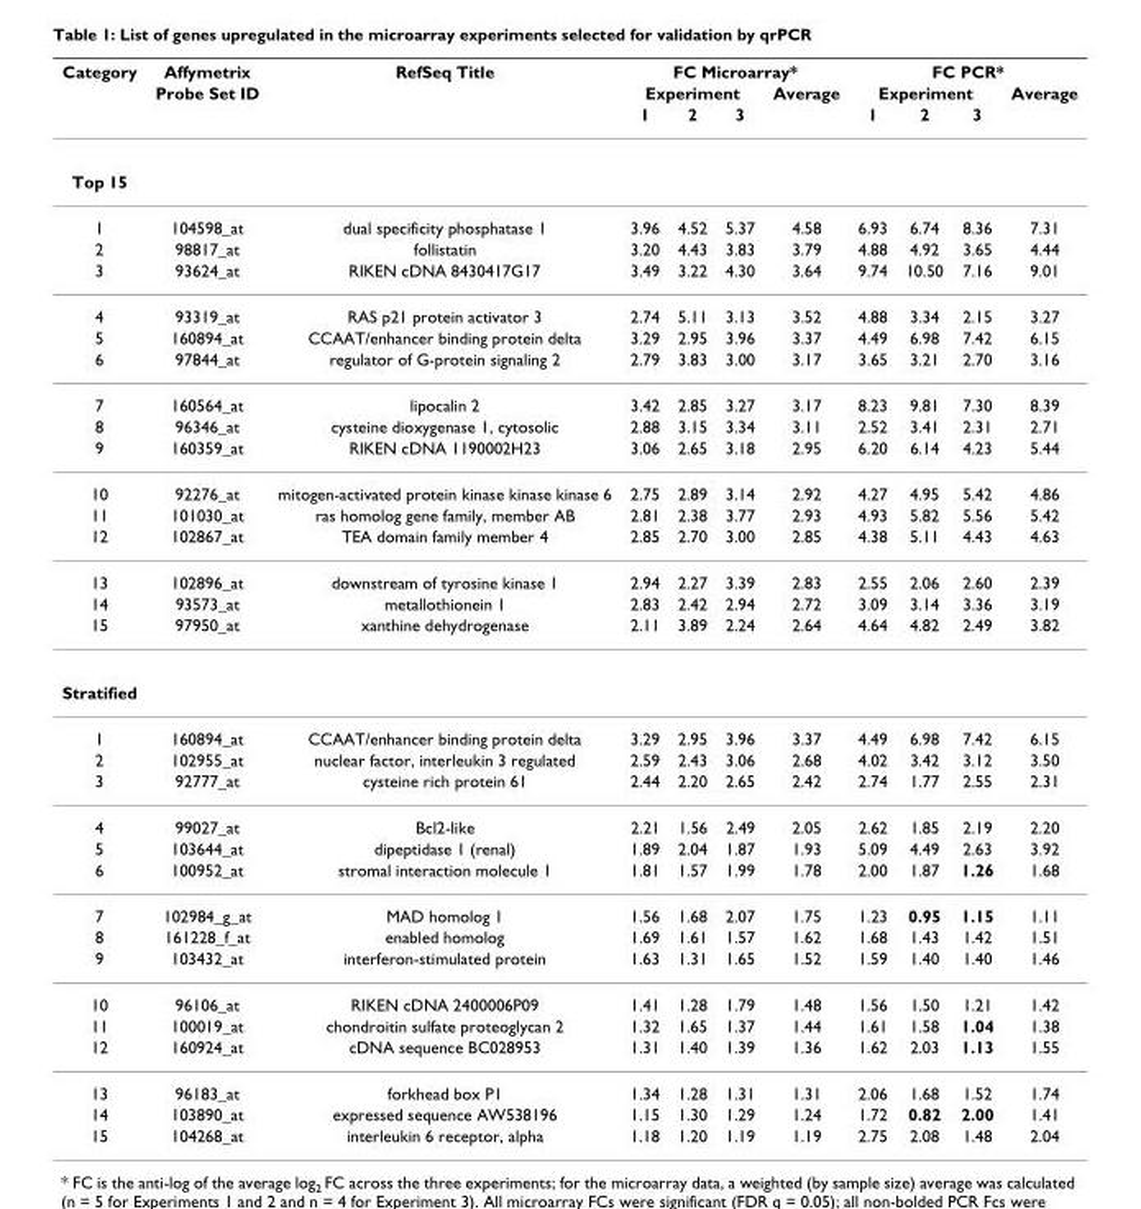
<table><thead><tr><td rowspan="3">Category</td><td rowspan="3">Affymetrix Probe Set ID</td><td rowspan="3">RefSeq Title</td><td colspan="4">FC Microarray*</td><td colspan="4">FC PCR*</td></tr><tr><td colspan="3">Experiment</td><td rowspan="2">Average</td><td colspan="3">Experiment</td><td rowspan="2">Average</td></tr><tr><td>1</td><td>2</td><td>3</td><td>1</td><td>2</td><td>3</td></tr></thead><tbody><tr><td colspan="11">Top 15</td></tr><tr><td>1</td><td>104598_at</td><td>dual specificity phosphatase 1</td><td>3.96</td><td>4.52</td><td>5.37</td><td>4.58</td><td>6.93</td><td>6.74</td><td>8.36</td><td>7.31</td></tr><tr><td>2</td><td>98817_at</td><td>follistatin</td><td>3.20</td><td>4.43</td><td>3.83</td><td>3.79</td><td>4.88</td><td>4.92</td><td>3.65</td><td>4.44</td></tr><tr><td>3</td><td>93624_at</td><td>RIKEN cDNA 8430417G17</td><td>3.49</td><td>3.22</td><td>4.30</td><td>3.64</td><td>9.74</td><td>10.50</td><td>7.16</td><td>9.01</td></tr><tr><td>4</td><td>93319_at</td><td>RAS p21 protein activator 3</td><td>2.74</td><td>5.11</td><td>3.13</td><td>3.52</td><td>4.88</td><td>3.34</td><td>2.15</td><td>3.27</td></tr><tr><td>5</td><td>160894_at</td><td>CCAAT/enhancer binding protein delta</td><td>3.29</td><td>2.95</td><td>3.96</td><td>3.37</td><td>4.49</td><td>6.98</td><td>7.42</td><td>6.15</td></tr><tr><td>6</td><td>97844_at</td><td>regulator of G-protein signaling 2</td><td>2.79</td><td>3.83</td><td>3.00</td><td>3.17</td><td>3.65</td><td>3.21</td><td>2.70</td><td>3.16</td></tr><tr><td>7</td><td>160564_at</td><td>lipocalin 2</td><td>3.42</td><td>2.85</td><td>3.27</td><td>3.17</td><td>8.23</td><td>9.81</td><td>7.30</td><td>8.39</td></tr><tr><td>8</td><td>96346_at</td><td>cysteine dioxygenase 1, cytosolic</td><td>2.88</td><td>3.15</td><td>3.34</td><td>3.11</td><td>2.52</td><td>3.41</td><td>2.31</td><td>2.71</td></tr><tr><td>9</td><td>160359_at</td><td>RIKEN cDNA 1190002H23</td><td>3.06</td><td>2.65</td><td>3.18</td><td>2.95</td><td>6.20</td><td>6.14</td><td>4.23</td><td>5.44</td></tr><tr><td>10</td><td>92276_at</td><td>mitogen-activated protein kinase kinase kinase 6</td><td>2.75</td><td>2.89</td><td>3.14</td><td>2.92</td><td>4.27</td><td>4.95</td><td>5.42</td><td>4.86</td></tr><tr><td>11</td><td>101030_at</td><td>ras homolog gene family, member AB</td><td>2.81</td><td>2.38</td><td>3.77</td><td>2.93</td><td>4.93</td><td>5.82</td><td>5.56</td><td>5.42</td></tr><tr><td>12</td><td>102867_at</td><td>TEA domain family member 4</td><td>2.85</td><td>2.70</td><td>3.00</td><td>2.85</td><td>4.38</td><td>5.11</td><td>4.43</td><td>4.63</td></tr><tr><td>13</td><td>102896_at</td><td>downstream of tyrosine kinase 1</td><td>2.94</td><td>2.27</td><td>3.39</td><td>2.83</td><td>2.55</td><td>2.06</td><td>2.60</td><td>2.39</td></tr><tr><td>14</td><td>93573_at</td><td>metallothionein 1</td><td>2.83</td><td>2.42</td><td>2.94</td><td>2.72</td><td>3.09</td><td>3.14</td><td>3.36</td><td>3.19</td></tr><tr><td>15</td><td>97950_at</td><td>xanthine dehydrogenase</td><td>2.11</td><td>3.89</td><td>2.24</td><td>2.64</td><td>4.64</td><td>4.82</td><td>2.49</td><td>3.82</td></tr><tr><td colspan="11">Stratified</td></tr><tr><td>1</td><td>160894_at</td><td>CCAAT/enhancer binding protein delta</td><td>3.29</td><td>2.95</td><td>3.96</td><td>3.37</td><td>4.49</td><td>6.98</td><td>7.42</td><td>6.15</td></tr><tr><td>2</td><td>102955_at</td><td>nuclear factor, interleukin 3 regulated</td><td>2.59</td><td>2.43</td><td>3.06</td><td>2.68</td><td>4.02</td><td>3.42</td><td>3.12</td><td>3.50</td></tr><tr><td>3</td><td>92777_at</td><td>cysteine rich protein 61</td><td>2.44</td><td>2.20</td><td>2.65</td><td>2.42</td><td>2.74</td><td>1.77</td><td>2.55</td><td>2.31</td></tr><tr><td>4</td><td>99027_at</td><td>Bcl2-like</td><td>2.21</td><td>1.56</td><td>2.49</td><td>2.05</td><td>2.62</td><td>1.85</td><td>2.19</td><td>2.20</td></tr><tr><td>5</td><td>103644_at</td><td>dipeptidase 1 (renal)</td><td>1.89</td><td>2.04</td><td>1.87</td><td>1.93</td><td>5.09</td><td>4.49</td><td>2.63</td><td>3.92</td></tr><tr><td>6</td><td>100952_at</td><td>stromal interaction molecule 1</td><td>1.81</td><td>1.57</td><td>1.99</td><td>1.78</td><td>2.00</td><td>1.87</td><td>1.26</td><td>1.68</td></tr><tr><td>7</td><td>102984_g_at</td><td>MAD homolog 1</td><td>1.56</td><td>1.68</td><td>2.07</td><td>1.75</td><td>1.23</td><td>0.95</td><td>1.15</td><td>1.11</td></tr><tr><td>8</td><td>161228_f_at</td><td>enabled homolog</td><td>1.69</td><td>1.61</td><td>1.57</td><td>1.62</td><td>1.68</td><td>1.43</td><td>1.42</td><td>1.51</td></tr><tr><td>9</td><td>103432_at</td><td>interferon-stimulated protein</td><td>1.63</td><td>1.31</td><td>1.65</td><td>1.52</td><td>1.59</td><td>1.40</td><td>1.40</td><td>1.46</td></tr><tr><td>10</td><td>96106_at</td><td>RIKEN cDNA 2400006P09</td><td>1.41</td><td>1.28</td><td>1.79</td><td>1.48</td><td>1.56</td><td>1.50</td><td>1.21</td><td>1.42</td></tr><tr><td>11</td><td>100019_at</td><td>chondroitin sulfate proteoglycan 2</td><td>1.32</td><td>1.65</td><td>1.37</td><td>1.44</td><td>1.61</td><td>1.58</td><td>1.04</td><td>1.38</td></tr><tr><td>12</td><td>160924_at</td><td>cDNA sequence BC028953</td><td>1.31</td><td>1.40</td><td>1.39</td><td>1.36</td><td>1.62</td><td>2.03</td><td>1.13</td><td>1.55</td></tr><tr><td>13</td><td>96183_at</td><td>forkhead box P1</td><td>1.34</td><td>1.28</td><td>1.31</td><td>1.31</td><td>2.06</td><td>1.68</td><td>1.52</td><td>1.74</td></tr><tr><td>14</td><td>103890_at</td><td>expressed sequence AW538196</td><td>1.15</td><td>1.30</td><td>1.29</td><td>1.24</td><td>1.72</td><td>0.82</td><td>2.00</td><td>1.41</td></tr><tr><td>15</td><td>104268_at</td><td>interleukin 6 receptor, alpha</td><td>1.18</td><td>1.20</td><td>1.19</td><td>1.19</td><td>2.75</td><td>2.08</td><td>1.48</td><td>2.04</td></tr></tbody></table>